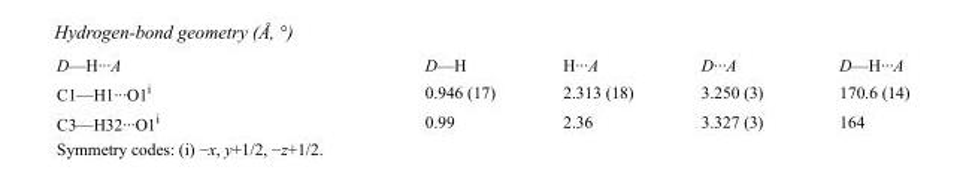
<table><tbody><tr><td>D—H···A</td><td>D—H</td><td>H···A</td><td>D···A</td><td>D—H···A</td></tr><tr><td>C1—H1···O1<sup>i</sup></td><td>0.946 (17)</td><td>2.313 (18)</td><td>3.250 (3)</td><td>170.6 (14)</td></tr><tr><td>C3—H32···O1<sup>i</sup></td><td>0.99</td><td>2.36</td><td>3.327 (3)</td><td>164</td></tr></tbody></table>